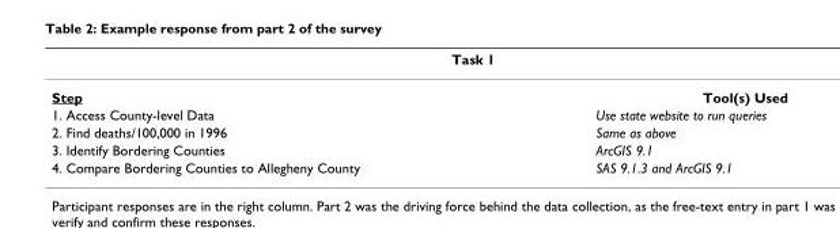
<table><thead><tr><td colspan="2">Task 1</td></tr><tr><td>Step</td><td>Tool(s) Used</td></tr></thead><tbody><tr><td>1. Access County-level Data</td><td>Use state website to run queries</td></tr><tr><td>2. Find deaths/100,000 in 1996</td><td>Same as above</td></tr><tr><td>3. Identify Bordering Counties</td><td>ArcGIS 9.1</td></tr><tr><td>4. Compare Bordering Counties to Allegheny County</td><td>SAS 9.1.3 and ArcGIS 9.1</td></tr></tbody></table>